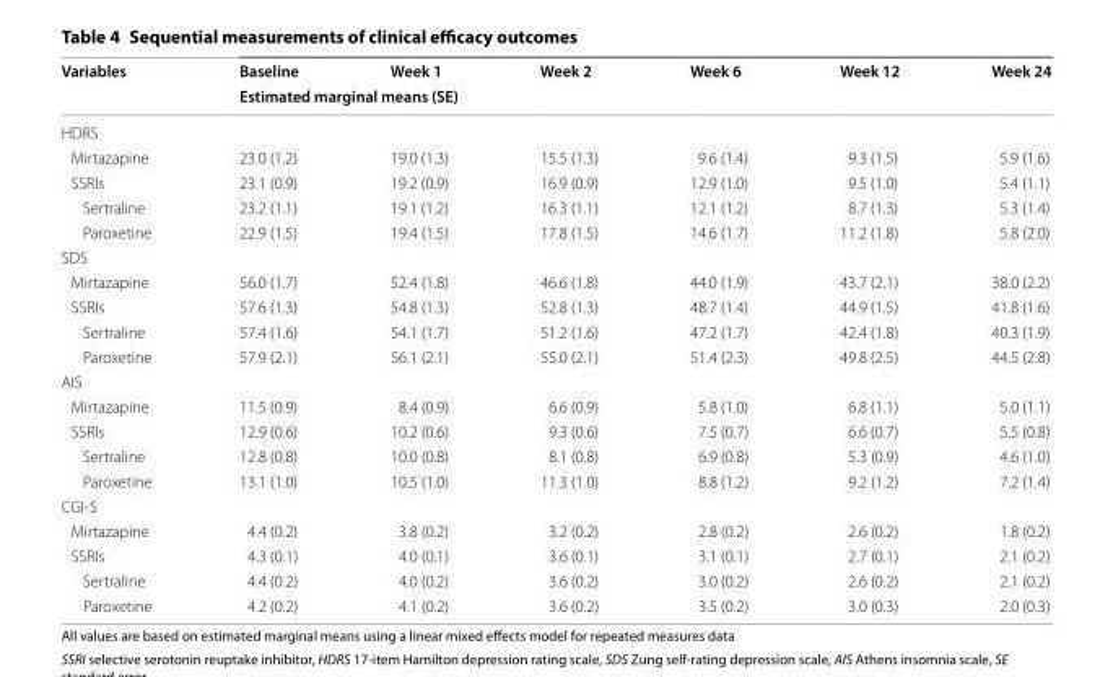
<table><thead><tr><td rowspan="2">Variables</td><td>Baseline</td><td>Week 1</td><td>Week 2</td><td>Week 6</td><td>Week 12</td><td>Week 24</td></tr><tr><td colspan="6">Estimated marginal means (SE)</td></tr></thead><tbody><tr><td colspan="7">HDRS</td></tr><tr><td>Mirtazapine</td><td>23.0 (1.2)</td><td>19.0 (1.3)</td><td>15.5 (1.3)</td><td>9.6 (1.4)</td><td>9.3 (1.5)</td><td>5.9 (1.6)</td></tr><tr><td>SSRIs</td><td>23.1 (0.9)</td><td>19.2 (0.9)</td><td>16.9 (0.9)</td><td>12.9 (1.0)</td><td>9.5 (1.0)</td><td>5.4 (1.1)</td></tr><tr><td>Sertraline</td><td>23.2 (1.1)</td><td>19.1 (1.2)</td><td>16.3 (1.1)</td><td>12.1 (1.2)</td><td>8.7 (1.3)</td><td>5.3 (1.4)</td></tr><tr><td>Paroxetine</td><td>22.9 (1.5)</td><td>19.4 (1.5)</td><td>17.8 (1.5)</td><td>14.6 (1.7)</td><td>11.2 (1.8)</td><td>5.8 (2.0)</td></tr><tr><td colspan="7">SDS</td></tr><tr><td>Mirtazapine</td><td>56.0 (1.7)</td><td>52.4 (1.8)</td><td>46.6 (1.8)</td><td>44.0 (1.9)</td><td>43.7 (2.1)</td><td>38.0 (2.2)</td></tr><tr><td>SSRIs</td><td>57.6 (1.3)</td><td>54.8 (1.3)</td><td>52.8 (1.3)</td><td>48.7 (1.4)</td><td>44.9 (1.5)</td><td>41.8 (1.6)</td></tr><tr><td>Sertraline</td><td>57.4 (1.6)</td><td>54.1 (1.7)</td><td>51.2 (1.6)</td><td>47.2 (1.7)</td><td>42.4 (1.8)</td><td>40.3 (1.9)</td></tr><tr><td>Paroxetine</td><td>57.9 (2.1)</td><td>56.1 (2.1)</td><td>55.0 (2.1)</td><td>51.4 (2.3)</td><td>49.8 (2.5)</td><td>44.5 (2.8)</td></tr><tr><td colspan="7">AIS</td></tr><tr><td>Mirtazapine</td><td>11.5 (0.9)</td><td>8.4 (0.9)</td><td>6.6 (0.9)</td><td>5.8 (1.0)</td><td>6.8 (1.1)</td><td>5.0 (1.1)</td></tr><tr><td>SSRIs</td><td>12.9 (0.6)</td><td>10.2 (0.6)</td><td>9.3 (0.6)</td><td>7.5 (0.7)</td><td>6.6 (0.7)</td><td>5.5 (0.8)</td></tr><tr><td>Sertraline</td><td>12.8 (0.8)</td><td>10.0 (0.8)</td><td>8.1 (0.8)</td><td>6.9 (0.8)</td><td>5.3 (0.9)</td><td>4.6 (1.0)</td></tr><tr><td>Paroxetine</td><td>13.1 (1.0)</td><td>10.5 (1.0)</td><td>11.3 (1.0)</td><td>8.8 (1.2)</td><td>9.2 (1.2)</td><td>7.2 (1.4)</td></tr><tr><td colspan="7">CGI-S</td></tr><tr><td>Mirtazapine</td><td>4.4 (0.2)</td><td>3.8 (0.2)</td><td>3.2 (0.2)</td><td>2.8 (0.2)</td><td>2.6 (0.2)</td><td>1.8 (0.2)</td></tr><tr><td>SSRIs</td><td>4.3 (0.1)</td><td>4.0 (0.1)</td><td>3.6 (0.1)</td><td>3.1 (0.1)</td><td>2.7 (0.1)</td><td>2.1 (0.2)</td></tr><tr><td>Sertraline</td><td>4.4 (0.2)</td><td>4.0 (0.2)</td><td>3.6 (0.2)</td><td>3.0 (0.2)</td><td>2.6 (0.2)</td><td>2.1 (0.2)</td></tr><tr><td>Paroxetine</td><td>4.2 (0.2)</td><td>4.1 (0.2)</td><td>3.6 (0.2)</td><td>3.5 (0.2)</td><td>3.0 (0.3)</td><td>2.0 (0.3)</td></tr></tbody></table>